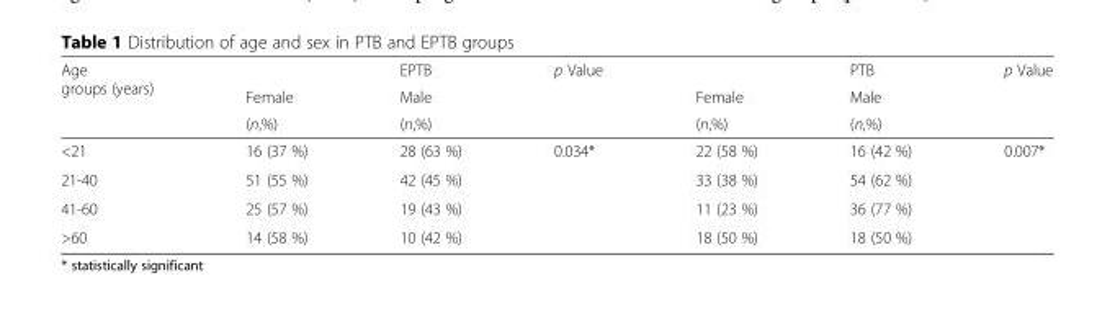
<table><thead><tr><td rowspan="3">Age groups (years)</td><td rowspan="3">Female (n,%)</td><td rowspan="3">EPTB Male (n,%)</td><td rowspan="3">p Value</td><td rowspan="3">Female (n,%)</td><td rowspan="3">PTB Male (n,%)</td><td rowspan="3">p Value</td></tr><tr></tr><tr></tr></thead><tbody><tr><td>&lt;21</td><td>16 (37 %)</td><td>28 (63 %)</td><td rowspan="4">0.034*</td><td>22 (58 %)</td><td>16 (42 %)</td><td rowspan="4">0.007*</td></tr><tr><td>21-40</td><td>51 (55 %)</td><td>42 (45 %)</td><td>33 (38 %)</td><td>54 (62 %)</td></tr><tr><td>41-60</td><td>25 (57 %)</td><td>19 (43 %)</td><td>11 (23 %)</td><td>36 (77 %)</td></tr><tr><td>&gt;60</td><td>14 (58 %)</td><td>10 (42 %)</td><td>18 (50 %)</td><td>18 (50 %)</td></tr></tbody></table>